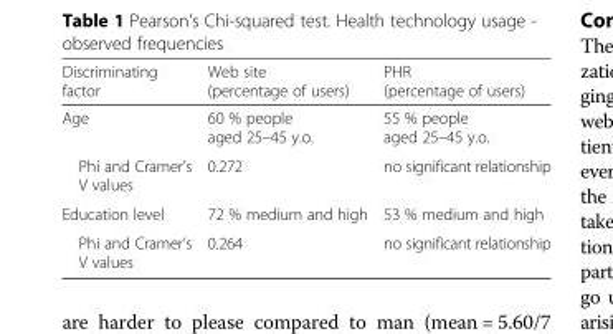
<table><thead><tr><td>Discriminating factor</td><td>Web site (percentage of users)</td><td>PHR (percentage of users)</td></tr></thead><tbody><tr><td>Age</td><td>60 % people aged 25–45 y.o.</td><td>55 % people aged 25–45 y.o.</td></tr><tr><td>Phi and Cramer’s V values</td><td>0.272</td><td>no significant relationship</td></tr><tr><td>Education level</td><td>72 % medium and high</td><td>53 % medium and high</td></tr><tr><td>Phi and Cramer’s V values</td><td>0.264</td><td>no significant relationship</td></tr></tbody></table>